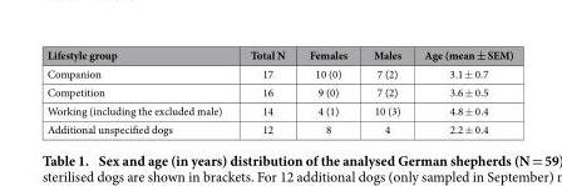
<table><thead><tr><td>Lifestyle group</td><td>Total N</td><td>Females</td><td>Males</td><td>Age (mean ± SEM)</td></tr></thead><tbody><tr><td>Companion</td><td>17</td><td>10 (0)</td><td>7 (2)</td><td>3.1 ± 0.7</td></tr><tr><td>Competition</td><td>16</td><td>9 (0)</td><td>7 (2)</td><td>3.6 ± 0.5</td></tr><tr><td>Working (including the excluded male)</td><td>14</td><td>4 (1)</td><td>10 (3)</td><td>4.8 ± 0.4</td></tr><tr><td>Additional unspecified dogs</td><td>12</td><td>8</td><td>4</td><td>2.2 ± 0.4</td></tr></tbody></table>